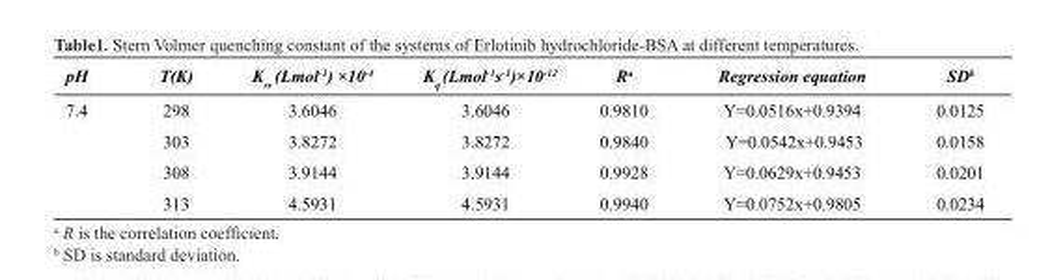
<table><thead><tr><td>pH</td><td>T(K)</td><td>K<sub>sv</sub> (Lmol<sup>-1</sup>) ×10<sup>-4</sup></td><td>K<sub>q</sub> (Lmol<sup>-1</sup>s<sup>-1</sup>)×10<sup>-12</sup></td><td>R<sup>a</sup></td><td>Regression equation</td><td>SD<sup>b</sup></td></tr></thead><tbody><tr><td rowspan="4">7.4</td><td>298</td><td>3.6046</td><td>3.6046</td><td>0.9810</td><td>Y=0.0516x+0.9394</td><td>0.0125</td></tr><tr><td>303</td><td>3.8272</td><td>3.8272</td><td>0.9840</td><td>Y=0.0542x+0.9453</td><td>0.0158</td></tr><tr><td>308</td><td>3.9144</td><td>3.9144</td><td>0.9928</td><td>Y=0.0629x+0.9453</td><td>0.0201</td></tr><tr><td>313</td><td>4.5931</td><td>4.5931</td><td>0.9940</td><td>Y=0.0752x+0.9805</td><td>0.0234</td></tr></tbody></table>